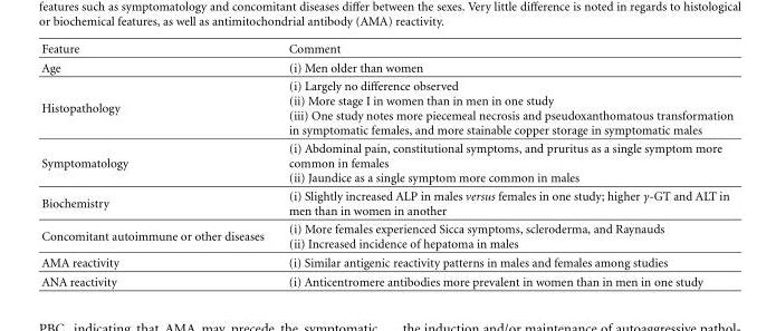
<table><thead><tr><td>Feature</td><td>Comment</td></tr></thead><tbody><tr><td>Age</td><td>(i) Men older than women</td></tr><tr><td>Histopathology</td><td>(i) Largely no difference observed (ii) More stage I in women than in men in one study (iii) One study notes more piecemeal necrosis and pseudoxanthomatous transformation in symptomatic females, and more stainable copper storage in symptomatic males</td></tr><tr><td>Symptomatology</td><td>(i) Abdominal pain, constitutional symptoms, and pruritus as a single symptom more common in females (ii) Jaundice as a single symptom more common in males</td></tr><tr><td>Biochemistry</td><td>(i) Slightly increased ALP in males versus females in one study; higher γ-GT and ALT in men than in women in another</td></tr><tr><td>Concomitant autoimmune or other diseases</td><td>(i) More females experienced Sicca symptoms, scleroderma, and Raynauds (ii) Increased incidence of hepatoma in males</td></tr><tr><td>AMA reactivity</td><td>(i) Similar antigenic reactivity patterns in males and females among studies</td></tr><tr><td>ANA reactivity</td><td>(i) Anticentromere antibodies more prevalent in women than in men in one study</td></tr></tbody></table>